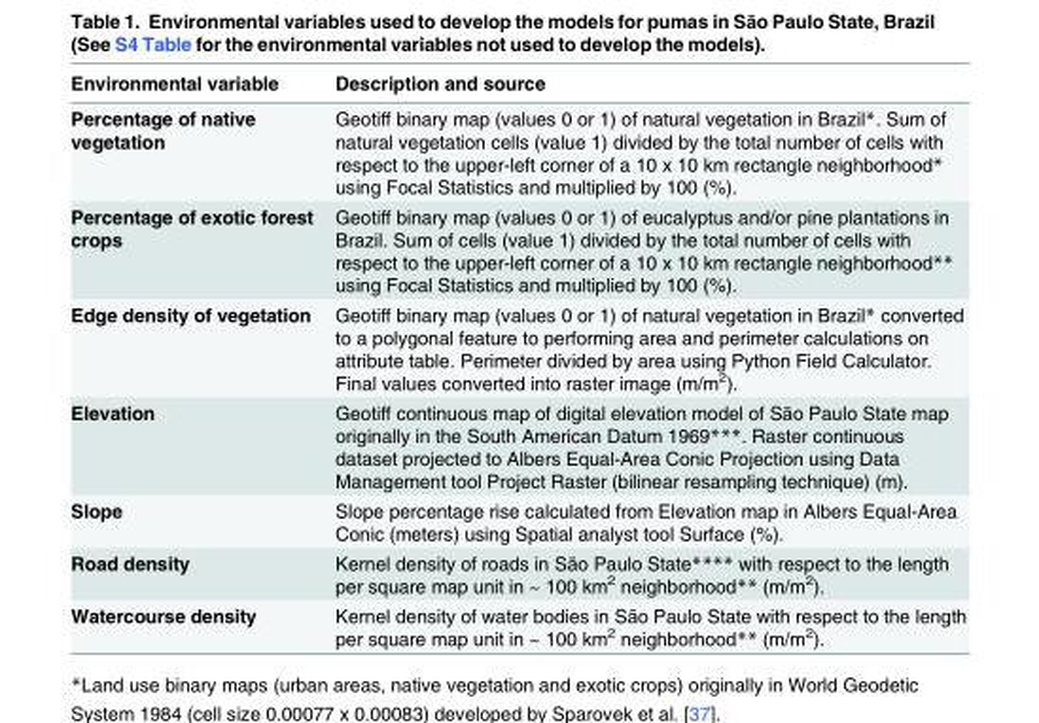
<table><thead><tr><td>Environmental variable</td><td>Description and source</td></tr></thead><tbody><tr><td>Percentage of native vegetation</td><td>Geotiff binary map (values 0 or 1) of natural vegetation in Brazil*. Sum of natural vegetation cells (value 1) divided by the total number of cells with respect to the upper-left corner of a 10 x 10 km rectangle neighborhood* using Focal Statistics and multiplied by 100 (%).</td></tr><tr><td>Percentage of exotic forest crops</td><td>Geotiff binary map (values 0 or 1) of eucalyptus and/or pine plantations in Brazil. Sum of cells (value 1) divided by the total number of cells with respect to the upper-left corner of a 10 x 10 km rectangle neighborhood** using Focal Statistics and multiplied by 100 (%).</td></tr><tr><td>Edge density of vegetation</td><td>Geotiff binary map (values 0 or 1) of natural vegetation in Brazil* converted to a polygonal feature to performing area and perimeter calculations on attribute table. Perimeter divided by area using Python Field Calculator. Final values converted into raster image (m/m<sup>2</sup>).</td></tr><tr><td>Elevation</td><td>Geotiff continuous map of digital elevation model of São Paulo State map originally in the South American Datum 1969***. Raster continuous dataset projected to Albers Equal-Area Conic Projection using Data Management tool Project Raster (bilinear resampling technique) (m).</td></tr><tr><td>Slope</td><td>Slope percentage rise calculated from Elevation map in Albers Equal-Area Conic (meters) using Spatial analyst tool Surface (%).</td></tr><tr><td>Road density</td><td>Kernel density of roads in São Paulo State**** with respect to the length per square map unit in ~ 100 km<sup>2</sup> neighborhood** (m/m<sup>2</sup>).</td></tr><tr><td>Watercourse density</td><td>Kernel density of water bodies in São Paulo State with respect to the length per square map unit in ~ 100 km<sup>2</sup> neighborhood** (m/m<sup>2</sup>).</td></tr></tbody></table>